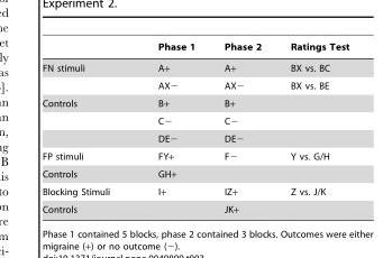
<table><thead><tr><td></td><td>Phase 1</td><td>Phase 2</td><td>Ratings Test</td></tr></thead><tbody><tr><td rowspan="2">FN stimuli</td><td>A+</td><td>A+</td><td>BX vs. BC</td></tr><tr><td>AX−</td><td>AX−</td><td>BX vs. BE</td></tr><tr><td rowspan="3">Controls</td><td>B+</td><td>B+</td><td></td></tr><tr><td>C−</td><td>C−</td><td></td></tr><tr><td>DE−</td><td>DE−</td><td></td></tr><tr><td>FP stimuli</td><td>FY+</td><td>F−</td><td>Y vs. G/H</td></tr><tr><td>Controls</td><td>GH+</td><td></td><td></td></tr><tr><td>Blocking Stimuli</td><td>I+</td><td>IZ+</td><td>Z vs. J/K</td></tr><tr><td>Controls</td><td></td><td>JK+</td><td></td></tr></tbody></table>